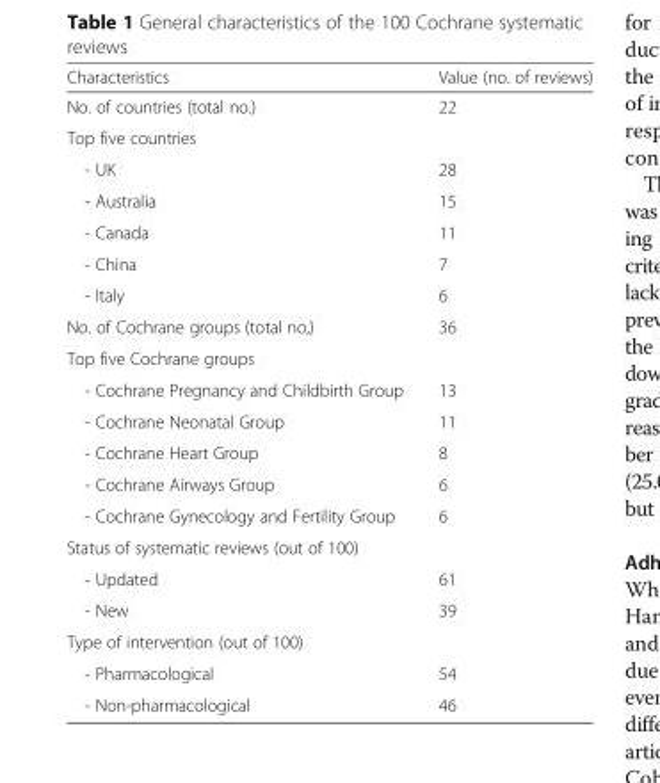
<table><thead><tr><td>Characteristics</td><td>Value (no. of reviews)</td></tr></thead><tbody><tr><td>No. of countries (total no.)</td><td>22</td></tr><tr><td colspan="2">Top five countries</td></tr><tr><td>- UK</td><td>28</td></tr><tr><td>- Australia</td><td>15</td></tr><tr><td>- Canada</td><td>11</td></tr><tr><td>- China</td><td>7</td></tr><tr><td>- Italy</td><td>6</td></tr><tr><td>No. of Cochrane groups (total no,)</td><td>36</td></tr><tr><td colspan="2">Top five Cochrane groups</td></tr><tr><td>- Cochrane Pregnancy and Childbirth Group</td><td>13</td></tr><tr><td>- Cochrane Neonatal Group</td><td>11</td></tr><tr><td>- Cochrane Heart Group</td><td>8</td></tr><tr><td>- Cochrane Airways Group</td><td>6</td></tr><tr><td>- Cochrane Gynecology and Fertility Group</td><td>6</td></tr><tr><td colspan="2">Status of systematic reviews (out of 100)</td></tr><tr><td>- Updated</td><td>61</td></tr><tr><td>- New</td><td>39</td></tr><tr><td colspan="2">Type of intervention (out of 100)</td></tr><tr><td>- Pharmacological</td><td>54</td></tr><tr><td>- Non-pharmacological</td><td>46</td></tr></tbody></table>